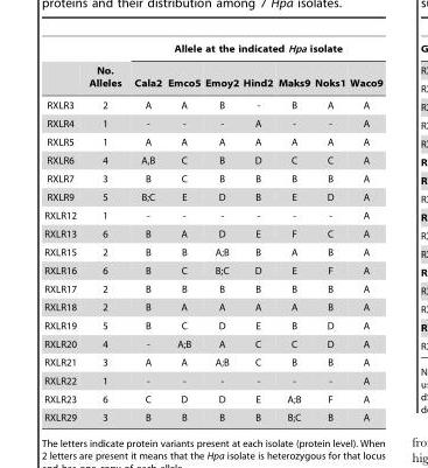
<table><thead><tr><td rowspan="2"></td><td rowspan="2">No. Alleles</td><td colspan="7">Allele at the indicated Hpa isolate</td></tr><tr><td>Cala2</td><td>Emco5</td><td>Emoy2</td><td>Hind2</td><td>Maks9</td><td>Noks1</td><td>Waco9</td></tr></thead><tbody><tr><td>RXLR3</td><td>2</td><td>A</td><td>A</td><td>B</td><td>-</td><td>B</td><td>A</td><td>A</td></tr><tr><td>RXLR4</td><td>1</td><td>-</td><td>-</td><td>-</td><td>A</td><td>-</td><td>-</td><td>A</td></tr><tr><td>RXLR5</td><td>1</td><td>A</td><td>A</td><td>A</td><td>A</td><td>A</td><td>A</td><td>A</td></tr><tr><td>RXLR6</td><td>4</td><td>A,B</td><td>C</td><td>B</td><td>D</td><td>C</td><td>C</td><td>A</td></tr><tr><td>RXLR7</td><td>3</td><td>B</td><td>C</td><td>B</td><td>B</td><td>B</td><td>B</td><td>A</td></tr><tr><td>RXLR9</td><td>5</td><td>B;C</td><td>E</td><td>D</td><td>B</td><td>E</td><td>D</td><td>A</td></tr><tr><td>RXLR12</td><td>1</td><td>-</td><td>-</td><td>-</td><td>-</td><td>-</td><td>-</td><td>A</td></tr><tr><td>RXLR13</td><td>6</td><td>B</td><td>A</td><td>D</td><td>E</td><td>F</td><td>C</td><td>A</td></tr><tr><td>RXLR15</td><td>2</td><td>B</td><td>B</td><td>A;B</td><td>B</td><td>A</td><td>B</td><td>A</td></tr><tr><td>RXLR16</td><td>6</td><td>B</td><td>C</td><td>B;C</td><td>D</td><td>E</td><td>F</td><td>A</td></tr><tr><td>RXLR17</td><td>2</td><td>B</td><td>B</td><td>B</td><td>B</td><td>B</td><td>B</td><td>A</td></tr><tr><td>RXLR18</td><td>2</td><td>B</td><td>A</td><td>A</td><td>A</td><td>A</td><td>B</td><td>A</td></tr><tr><td>RXLR19</td><td>5</td><td>B</td><td>C</td><td>D</td><td>E</td><td>B</td><td>D</td><td>A</td></tr><tr><td>RXLR20</td><td>4</td><td>-</td><td>A;B</td><td>A</td><td>C</td><td>C</td><td>D</td><td>A</td></tr><tr><td>RXLR21</td><td>3</td><td>A</td><td>A</td><td>A;B</td><td>C</td><td>B</td><td>B</td><td>A</td></tr><tr><td>RXLR22</td><td>1</td><td>-</td><td>-</td><td>-</td><td>-</td><td>-</td><td>-</td><td>A</td></tr><tr><td>RXLR23</td><td>6</td><td>C</td><td>D</td><td>D</td><td>E</td><td>A;B</td><td>F</td><td>A</td></tr><tr><td>RXLR29</td><td>3</td><td>B</td><td>B</td><td>B</td><td>B</td><td>B;C</td><td>B</td><td>A</td></tr></tbody></table>